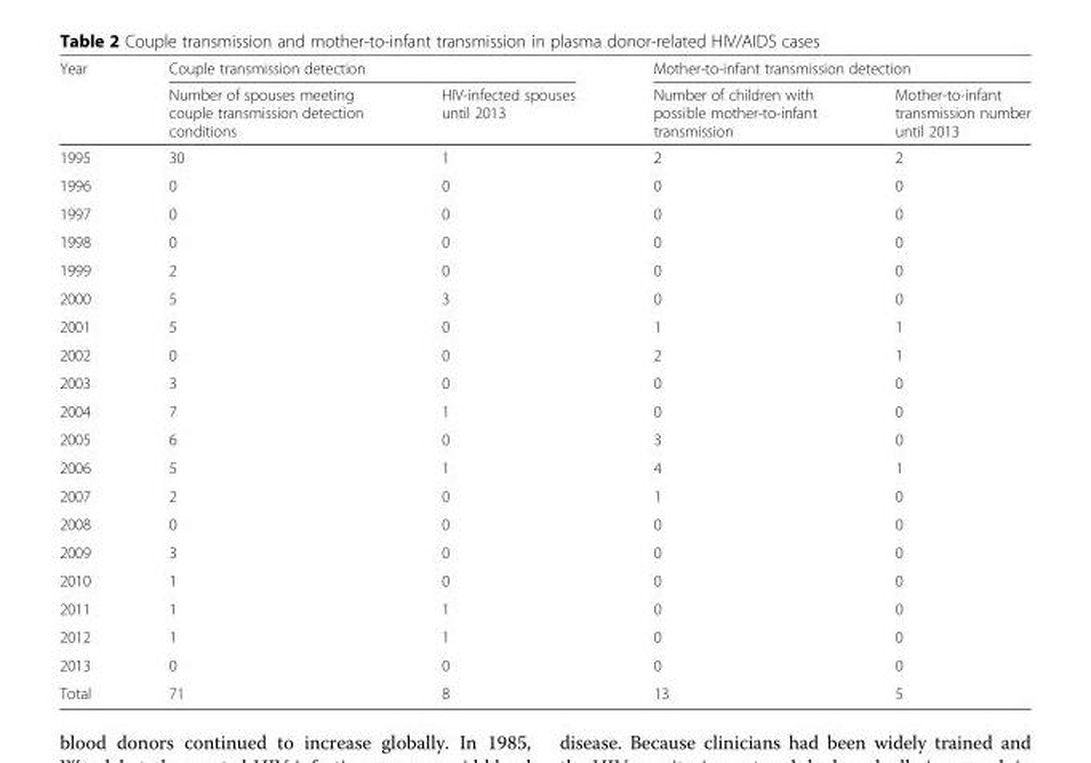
<table><thead><tr><td rowspan="2">Year</td><td colspan="2">Couple transmission detection</td><td colspan="2">Mother-to-infant transmission detection</td></tr><tr><td>Number of spouses meeting couple transmission detection conditions</td><td>HIV-infected spouses until 2013</td><td>Number of children with possible mother-to-infant transmission</td><td>Mother-to-infant transmission number until 2013</td></tr></thead><tbody><tr><td>1995</td><td>30</td><td>1</td><td>2</td><td>2</td></tr><tr><td>1996</td><td>0</td><td>0</td><td>0</td><td>0</td></tr><tr><td>1997</td><td>0</td><td>0</td><td>0</td><td>0</td></tr><tr><td>1998</td><td>0</td><td>0</td><td>0</td><td>0</td></tr><tr><td>1999</td><td>2</td><td>0</td><td>0</td><td>0</td></tr><tr><td>2000</td><td>5</td><td>3</td><td>0</td><td>0</td></tr><tr><td>2001</td><td>5</td><td>0</td><td>1</td><td>1</td></tr><tr><td>2002</td><td>0</td><td>0</td><td>2</td><td>1</td></tr><tr><td>2003</td><td>3</td><td>0</td><td>0</td><td>0</td></tr><tr><td>2004</td><td>7</td><td>1</td><td>0</td><td>0</td></tr><tr><td>2005</td><td>6</td><td>0</td><td>3</td><td>0</td></tr><tr><td>2006</td><td>5</td><td>1</td><td>4</td><td>1</td></tr><tr><td>2007</td><td>2</td><td>0</td><td>1</td><td>0</td></tr><tr><td>2008</td><td>0</td><td>0</td><td>0</td><td>0</td></tr><tr><td>2009</td><td>3</td><td>0</td><td>0</td><td>0</td></tr><tr><td>2010</td><td>1</td><td>0</td><td>0</td><td>0</td></tr><tr><td>2011</td><td>1</td><td>1</td><td>0</td><td>0</td></tr><tr><td>2012</td><td>1</td><td>1</td><td>0</td><td>0</td></tr><tr><td>2013</td><td>0</td><td>0</td><td>0</td><td>0</td></tr><tr><td>Total</td><td>71</td><td>8</td><td>13</td><td>5</td></tr></tbody></table>